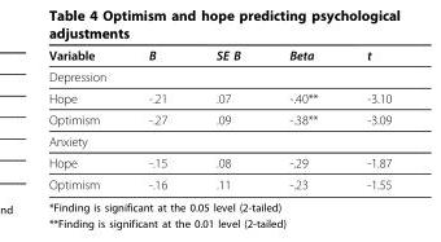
<table><thead><tr><td>Variable</td><td>Β</td><td>SE B</td><td>Beta</td><td>t</td></tr></thead><tbody><tr><td colspan="5">Depression</td></tr><tr><td>Hope</td><td>-.21</td><td>.07</td><td>-.40**</td><td>-3.10</td></tr><tr><td>Optimism</td><td>-.27</td><td>.09</td><td>-.38**</td><td>-3.09</td></tr><tr><td colspan="5">Anxiety</td></tr><tr><td>Hope</td><td>-.15</td><td>.08</td><td>-.29</td><td>-1.87</td></tr><tr><td>Optimism</td><td>-.16</td><td>.11</td><td>-.23</td><td>-1.55</td></tr></tbody></table>